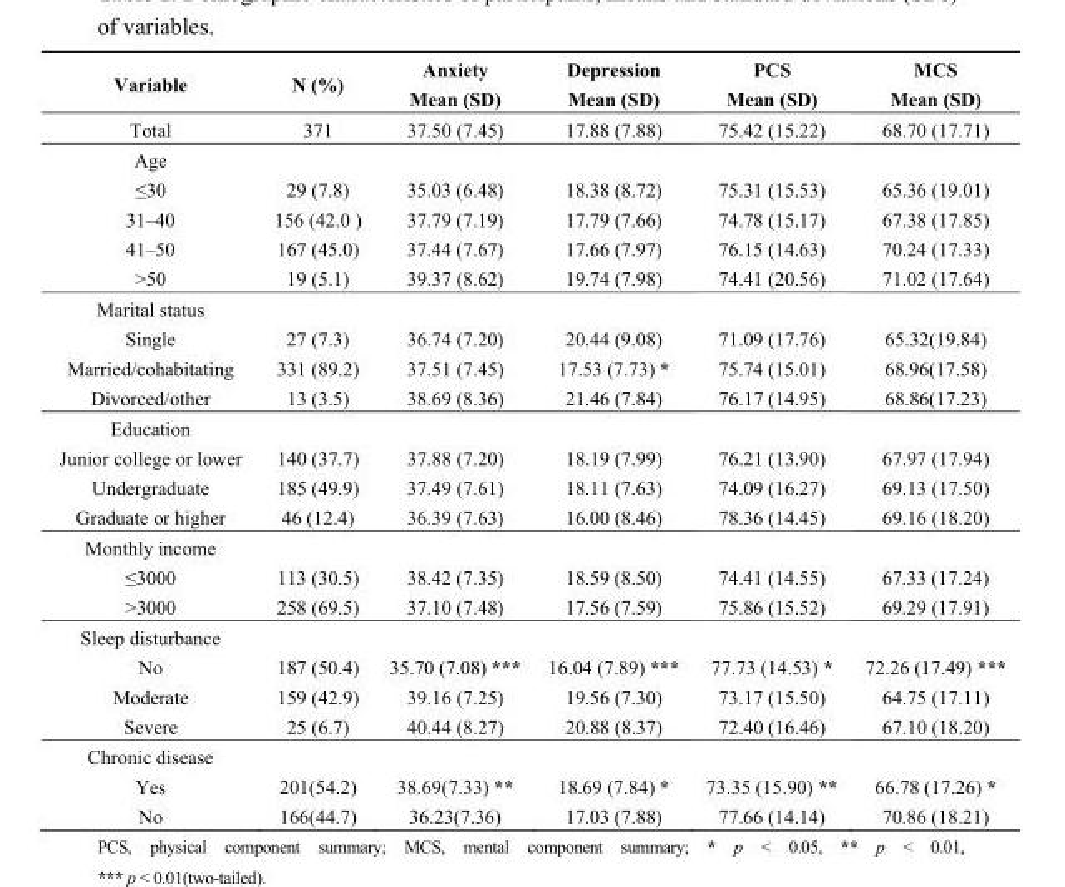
<table><thead><tr><td rowspan="2">Variable</td><td rowspan="2">N (%)</td><td rowspan="2">Anxiety Mean (SD)</td><td rowspan="2">Depression Mean (SD)</td><td rowspan="2">PCS Mean (SD)</td><td rowspan="2">MCS Mean (SD)</td></tr><tr></tr></thead><tbody><tr><td>Total</td><td>371</td><td>37.50 (7.45)</td><td>17.88 (7.88)</td><td>75.42 (15.22)</td><td>68.70 (17.71)</td></tr><tr><td colspan="6">Age</td></tr><tr><td>≤30</td><td>29 (7.8)</td><td>35.03 (6.48)</td><td>18.38 (8.72)</td><td>75.31 (15.53)</td><td>65.36 (19.01)</td></tr><tr><td>31–40</td><td>156 (42.0 )</td><td>37.79 (7.19)</td><td>17.79 (7.66)</td><td>74.78 (15.17)</td><td>67.38 (17.85)</td></tr><tr><td>41–50</td><td>167 (45.0)</td><td>37.44 (7.67)</td><td>17.66 (7.97)</td><td>76.15 (14.63)</td><td>70.24 (17.33)</td></tr><tr><td>&gt;50</td><td>19 (5.1)</td><td>39.37 (8.62)</td><td>19.74 (7.98)</td><td>74.41 (20.56)</td><td>71.02 (17.64)</td></tr><tr><td colspan="6">Marital status</td></tr><tr><td>Single</td><td>27 (7.3)</td><td>36.74 (7.20)</td><td>20.44 (9.08)</td><td>71.09 (17.76)</td><td>65.32(19.84)</td></tr><tr><td>Married/cohabitating</td><td>331 (89.2)</td><td>37.51 (7.45)</td><td>17.53 (7.73) *</td><td>75.74 (15.01)</td><td>68.96(17.58)</td></tr><tr><td>Divorced/other</td><td>13 (3.5)</td><td>38.69 (8.36)</td><td>21.46 (7.84)</td><td>76.17 (14.95)</td><td>68.86(17.23)</td></tr><tr><td colspan="6">Education</td></tr><tr><td>Junior college or lower</td><td>140 (37.7)</td><td>37.88 (7.20)</td><td>18.19 (7.99)</td><td>76.21 (13.90)</td><td>67.97 (17.94)</td></tr><tr><td>Undergraduate</td><td>185 (49.9)</td><td>37.49 (7.61)</td><td>18.11 (7.63)</td><td>74.09 (16.27)</td><td>69.13 (17.50)</td></tr><tr><td>Graduate or higher</td><td>46 (12.4)</td><td>36.39 (7.63)</td><td>16.00 (8.46)</td><td>78.36 (14.45)</td><td>69.16 (18.20)</td></tr><tr><td colspan="6">Monthly income</td></tr><tr><td>≤3000</td><td>113 (30.5)</td><td>38.42 (7.35)</td><td>18.59 (8.50)</td><td>74.41 (14.55)</td><td>67.33 (17.24)</td></tr><tr><td>&gt;3000</td><td>258 (69.5)</td><td>37.10 (7.48)</td><td>17.56 (7.59)</td><td>75.86 (15.52)</td><td>69.29 (17.91)</td></tr><tr><td colspan="6">Sleep disturbance</td></tr><tr><td>No</td><td>187 (50.4)</td><td>35.70 (7.08) ***</td><td>16.04 (7.89) ***</td><td>77.73 (14.53) *</td><td>72.26 (17.49) ***</td></tr><tr><td>Moderate</td><td>159 (42.9)</td><td>39.16 (7.25)</td><td>19.56 (7.30)</td><td>73.17 (15.50)</td><td>64.75 (17.11)</td></tr><tr><td>Severe</td><td>25 (6.7)</td><td>40.44 (8.27)</td><td>20.88 (8.37)</td><td>72.40 (16.46)</td><td>67.10 (18.20)</td></tr><tr><td colspan="6">Chronic disease</td></tr><tr><td>Yes</td><td>201(54.2)</td><td>38.69(7.33) **</td><td>18.69 (7.84) *</td><td>73.35 (15.90) **</td><td>66.78 (17.26) *</td></tr><tr><td>No</td><td>166(44.7)</td><td>36.23(7.36)</td><td>17.03 (7.88)</td><td>77.66 (14.14)</td><td>70.86 (18.21)</td></tr></tbody></table>